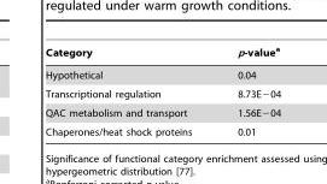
<table><thead><tr><td>Category</td><td>p-value<sup>a</sup></td></tr></thead><tbody><tr><td>Hypothetical</td><td>0.04</td></tr><tr><td>Transcriptional regulation</td><td>8.73E−04</td></tr><tr><td>QAC metabolism and transport</td><td>1.56E−04</td></tr><tr><td>Chaperones/heat shock proteins</td><td>0.01</td></tr></tbody></table>